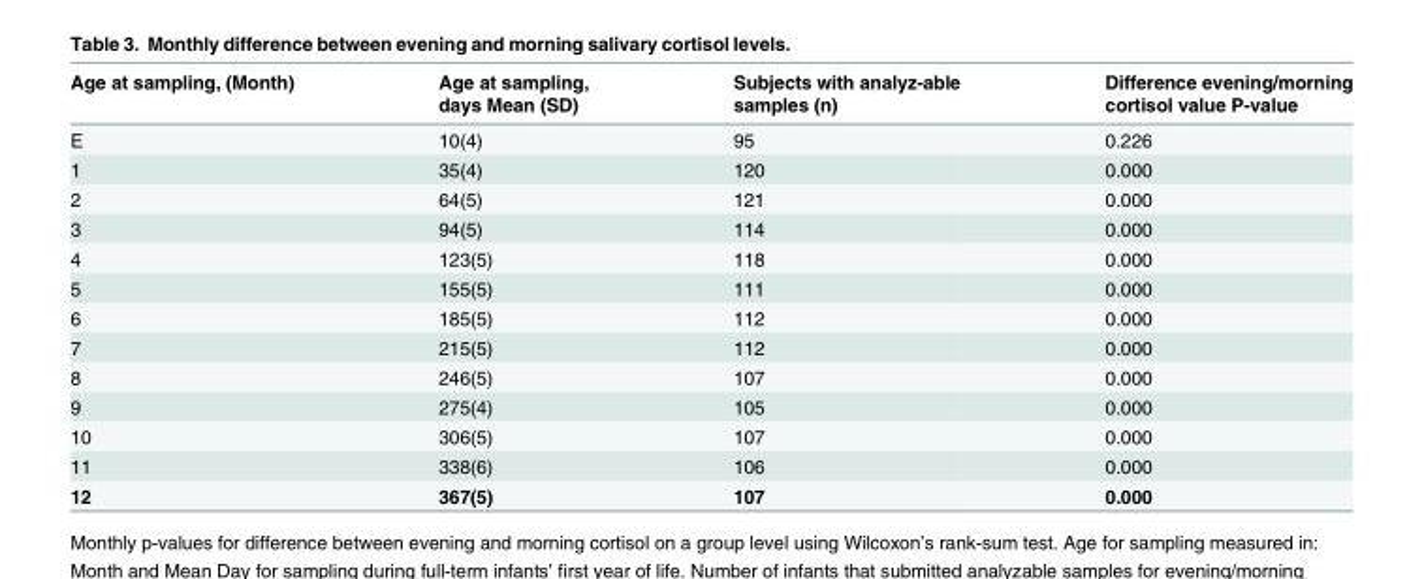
<table><thead><tr><td>Age at sampling, (Month)</td><td>Age at sampling, days Mean (SD)</td><td>Subjects with analyz-able samples (n)</td><td>Difference evening/morning cortisol value P-value</td></tr></thead><tbody><tr><td>E</td><td>10(4)</td><td>95</td><td>0.226</td></tr><tr><td>1</td><td>35(4)</td><td>120</td><td>0.000</td></tr><tr><td>2</td><td>64(5)</td><td>121</td><td>0.000</td></tr><tr><td>3</td><td>94(5)</td><td>114</td><td>0.000</td></tr><tr><td>4</td><td>123(5)</td><td>118</td><td>0.000</td></tr><tr><td>5</td><td>155(5)</td><td>111</td><td>0.000</td></tr><tr><td>6</td><td>185(5)</td><td>112</td><td>0.000</td></tr><tr><td>7</td><td>215(5)</td><td>112</td><td>0.000</td></tr><tr><td>8</td><td>246(5)</td><td>107</td><td>0.000</td></tr><tr><td>9</td><td>275(4)</td><td>105</td><td>0.000</td></tr><tr><td>10</td><td>306(5)</td><td>107</td><td>0.000</td></tr><tr><td>11</td><td>338(6)</td><td>106</td><td>0.000</td></tr><tr><td>12</td><td>367(5)</td><td>107</td><td>0.000</td></tr></tbody></table>